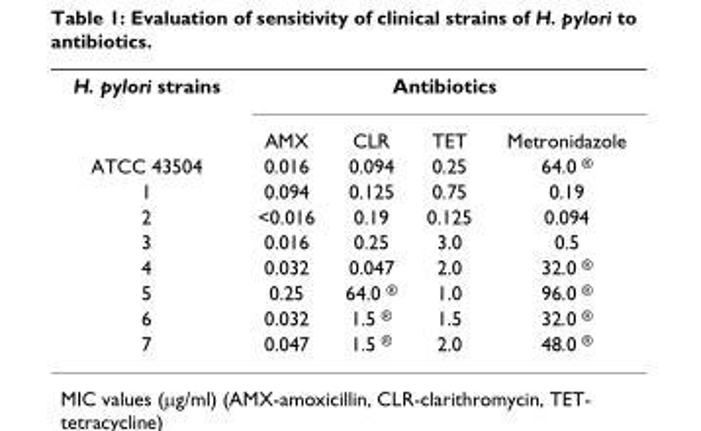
<table><tbody><tr><td rowspan="2">H. pylori strains</td><td colspan="4">Antibiotics</td></tr><tr><td>AMX</td><td>CLR</td><td>TET</td><td>Metronidazole</td></tr><tr><td>ATCC 43504</td><td>0.016</td><td>0.094</td><td>0.25</td><td>64.0 <sup>®</sup></td></tr><tr><td>1</td><td>0.094</td><td>0.125</td><td>0.75</td><td>0.19</td></tr><tr><td>2</td><td>&lt;0.016</td><td>0.19</td><td>0.125</td><td>0.094</td></tr><tr><td>3</td><td>0.016</td><td>0.25</td><td>3.0</td><td>0.5</td></tr><tr><td>4</td><td>0.032</td><td>0.047</td><td>2.0</td><td>32.0 <sup>®</sup></td></tr><tr><td>5</td><td>0.25</td><td>64.0 <sup>®</sup></td><td>1.0</td><td>96.0 <sup>®</sup></td></tr><tr><td>6</td><td>0.032</td><td>1.5 <sup>®</sup></td><td>1.5</td><td>32.0 <sup>®</sup></td></tr><tr><td>7</td><td>0.047</td><td>1.5 <sup>®</sup></td><td>2.0</td><td>48.0 <sup>®</sup></td></tr></tbody></table>